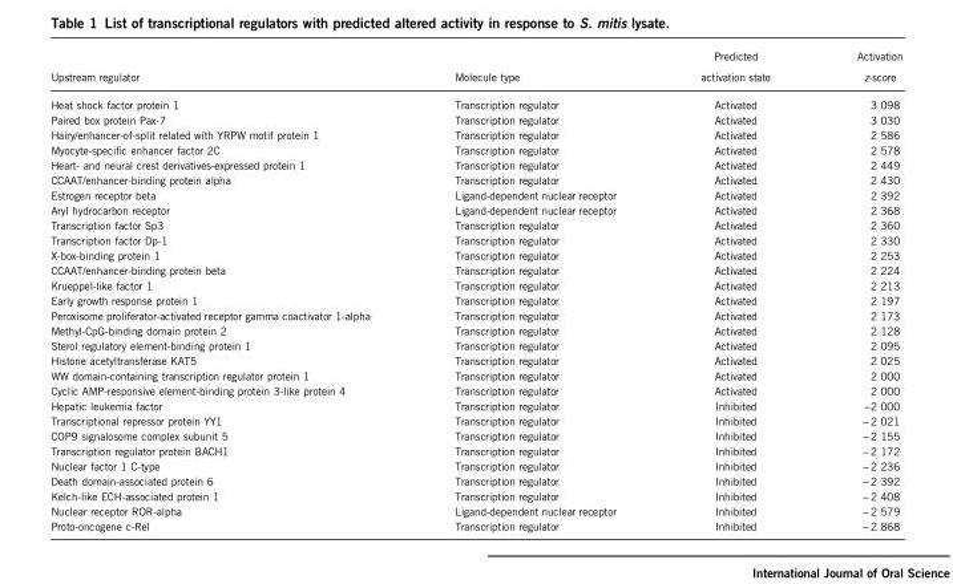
<table><thead><tr><td>Upstream regulator</td><td>Molecule type</td><td>Predicted activation state</td><td>Activation z-score</td></tr></thead><tbody><tr><td>Heat shock factor protein 1</td><td>Transcription regulator</td><td>Activated</td><td>3 098</td></tr><tr><td>Paired box protein Pax-7</td><td>Transcription regulator</td><td>Activated</td><td>3 030</td></tr><tr><td>Hairy/enhancer-of-split related with YRPW motif protein 1</td><td>Transcription regulator</td><td>Activated</td><td>2 586</td></tr><tr><td>Myocyte-specific enhancer factor 2C</td><td>Transcription regulator</td><td>Activated</td><td>2 578</td></tr><tr><td>Heart- and neural crest derivatives-expressed protein 1</td><td>Transcription regulator</td><td>Activated</td><td>2 449</td></tr><tr><td>CCAAT/enhancer-binding protein alpha</td><td>Transcription regulator</td><td>Activated</td><td>2 430</td></tr><tr><td>Estrogen receptor beta</td><td>Ligand-dependent nuclear receptor</td><td>Activated</td><td>2 392</td></tr><tr><td>Aryl hydrocarbon receptor</td><td>Ligand-dependent nuclear receptor</td><td>Activated</td><td>2 368</td></tr><tr><td>Transcription factor Sp3</td><td>Transcription regulator</td><td>Activated</td><td>2 360</td></tr><tr><td>Transcription factor Dp-1</td><td>Transcription regulator</td><td>Activated</td><td>2 330</td></tr><tr><td>X-box-binding protein 1</td><td>Transcription regulator</td><td>Activated</td><td>2 253</td></tr><tr><td>CCAAT/enhancer-binding protein beta</td><td>Transcription regulator</td><td>Activated</td><td>2 224</td></tr><tr><td>Krueppel-like factor 1</td><td>Transcription regulator</td><td>Activated</td><td>2 213</td></tr><tr><td>Early growth response protein 1</td><td>Transcription regulator</td><td>Activated</td><td>2 197</td></tr><tr><td>Peroxisome proliferator-activated receptor gamma coactivator 1-alpha</td><td>Transcription regulator</td><td>Activated</td><td>2 173</td></tr><tr><td>Methyl-CpG-binding domain protein 2</td><td>Transcription regulator</td><td>Activated</td><td>2 128</td></tr><tr><td>Sterol regulatory element-binding protein 1</td><td>Transcription regulator</td><td>Activated</td><td>2 095</td></tr><tr><td>Histone acetyltransferase KAT5</td><td>Transcription regulator</td><td>Activated</td><td>2 025</td></tr><tr><td>WW domain-containing transcription regulator protein 1</td><td>Transcription regulator</td><td>Activated</td><td>2 000</td></tr><tr><td>Cyclic AMP-responsive element-binding protein 3-like protein 4</td><td>Transcription regulator</td><td>Activated</td><td>2 000</td></tr><tr><td>Hepatic leukemia factor</td><td>Transcription regulator</td><td>Inhibited</td><td>−2 000</td></tr><tr><td>Transcriptional repressor protein YY1</td><td>Transcription regulator</td><td>Inhibited</td><td>− 2 021</td></tr><tr><td>COP9 signalosome complex subunit 5</td><td>Transcription regulator</td><td>Inhibited</td><td>− 2 155</td></tr><tr><td>Transcription regulator protein BACH1</td><td>Transcription regulator</td><td>Inhibited</td><td>− 2 172</td></tr><tr><td>Nuclear factor 1 C-type</td><td>Transcription regulator</td><td>Inhibited</td><td>− 2 236</td></tr><tr><td>Death domain-associated protein 6</td><td>Transcription regulator</td><td>Inhibited</td><td>− 2 392</td></tr><tr><td>Kelch-like ECH-associated protein 1</td><td>Transcription regulator</td><td>Inhibited</td><td>− 2 408</td></tr><tr><td>Nuclear receptor ROR-alpha</td><td>Ligand-dependent nuclear receptor</td><td>Inhibited</td><td>− 2 579</td></tr><tr><td>Proto-oncogene c-Rel</td><td>Transcription regulator</td><td>Inhibited</td><td>− 2 868</td></tr></tbody></table>